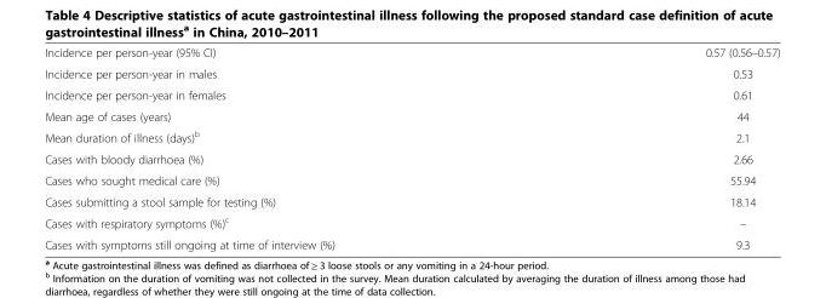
<table><tbody><tr><td>Incidence per person-year (95% CI)</td><td>0.57 (0.56–0.57)</td></tr><tr><td>Incidence per person-year in males</td><td>0.53</td></tr><tr><td>Incidence per person-year in females</td><td>0.61</td></tr><tr><td>Mean age of cases (years)</td><td>44</td></tr><tr><td>Mean duration of illness (days)<sup>b</sup></td><td>2.1</td></tr><tr><td>Cases with bloody diarrhoea (%)</td><td>2.66</td></tr><tr><td>Cases who sought medical care (%)</td><td>55.94</td></tr><tr><td>Cases submitting a stool sample for testing (%)</td><td>18.14</td></tr><tr><td>Cases with respiratory symptoms (%)<sup>c</sup></td><td>–</td></tr><tr><td>Cases with symptoms still ongoing at time of interview (%)</td><td>9.3</td></tr></tbody></table>